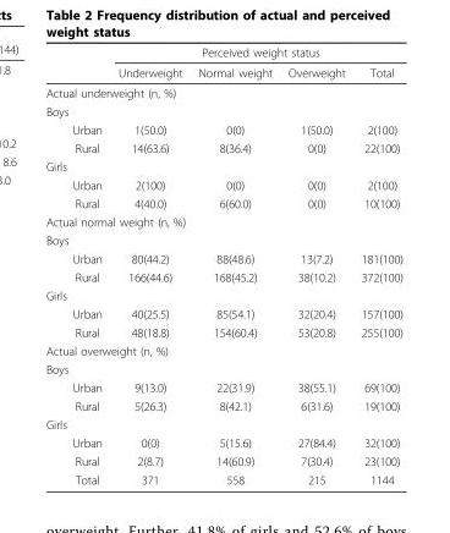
<table><thead><tr><td rowspan="2"></td><td colspan="4">Perceived weight status</td></tr><tr><td>Underweight</td><td>Normal weight</td><td>Overweight</td><td>Total</td></tr></thead><tbody><tr><td colspan="5">Actual underweight (n, %)</td></tr><tr><td colspan="5">Boys</td></tr><tr><td>Urban</td><td>1(50.0)</td><td>0(0)</td><td>1(50.0)</td><td>2(100)</td></tr><tr><td>Rural</td><td>14(63.6)</td><td>8(36.4)</td><td>0(0)</td><td>22(100)</td></tr><tr><td colspan="5">Girls</td></tr><tr><td>Urban</td><td>2(100)</td><td>0(0)</td><td>0(0)</td><td>2(100)</td></tr><tr><td>Rural</td><td>4(40.0)</td><td>6(60.0)</td><td>0(0)</td><td>10(100)</td></tr><tr><td colspan="5">Actual normal weight (n, %)</td></tr><tr><td colspan="5">Boys</td></tr><tr><td>Urban</td><td>80(44.2)</td><td>88(48.6)</td><td>13(7.2)</td><td>181(100)</td></tr><tr><td>Rural</td><td>166(44.6)</td><td>168(45.2)</td><td>38(10.2)</td><td>372(100)</td></tr><tr><td colspan="5">Girls</td></tr><tr><td>Urban</td><td>40(25.5)</td><td>85(54.1)</td><td>32(20.4)</td><td>157(100)</td></tr><tr><td>Rural</td><td>48(18.8)</td><td>154(60.4)</td><td>53(20.8)</td><td>255(100)</td></tr><tr><td colspan="5">Actual overweight (n, %)</td></tr><tr><td colspan="5">Boys</td></tr><tr><td>Urban</td><td>9(13.0)</td><td>22(31.9)</td><td>38(55.1)</td><td>69(100)</td></tr><tr><td>Rural</td><td>5(26.3)</td><td>8(42.1)</td><td>6(31.6)</td><td>19(100)</td></tr><tr><td colspan="5">Girls</td></tr><tr><td>Urban</td><td>0(0)</td><td>5(15.6)</td><td>27(84.4)</td><td>32(100)</td></tr><tr><td>Rural</td><td>2(8.7)</td><td>14(60.9)</td><td>7(30.4)</td><td>23(100)</td></tr><tr><td>Total</td><td>371</td><td>558</td><td>215</td><td>1144</td></tr></tbody></table>